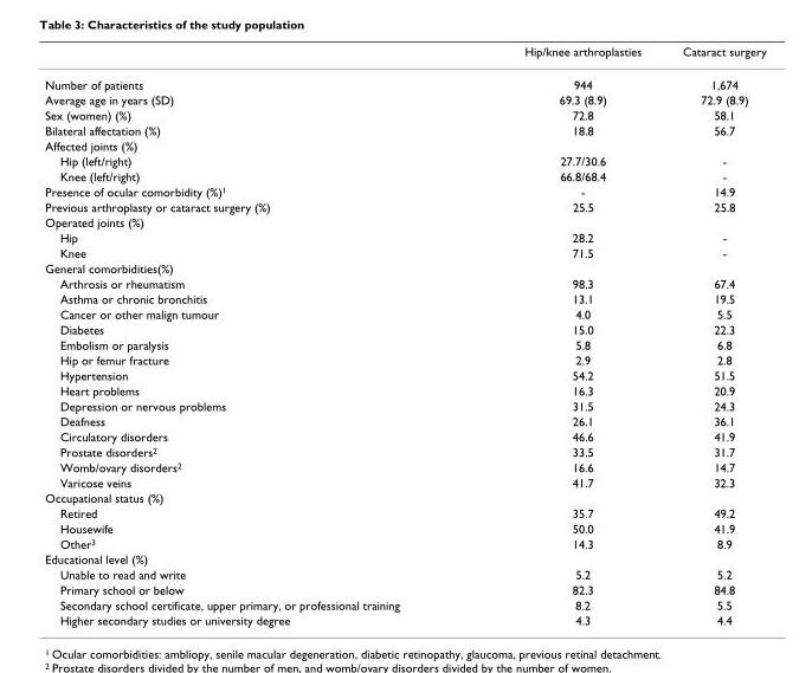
<table><thead><tr><td></td><td>Hip/knee arthroplasties</td><td>Cataract surgery</td></tr></thead><tbody><tr><td>Number of patients</td><td>944</td><td>1,674</td></tr><tr><td>Average age in years (SD)</td><td>69.3 (8.9)</td><td>72.9 (8.9)</td></tr><tr><td>Sex (women) (%)</td><td>72.8</td><td>58.1</td></tr><tr><td>Bilateral affectation (%)</td><td>18.8</td><td>56.7</td></tr><tr><td colspan="3">Affected joints (%)</td></tr><tr><td>Hip (left/right)</td><td>27.7/30.6</td><td>-</td></tr><tr><td>Knee (left/right)</td><td>66.8/68.4</td><td>-</td></tr><tr><td>Presence of ocular comorbidity (%)<sup>1</sup></td><td>-</td><td>14.9</td></tr><tr><td>Previous arthroplasty or cataract surgery (%)</td><td>25.5</td><td>25.8</td></tr><tr><td colspan="3">Operated joints (%)</td></tr><tr><td>Hip</td><td>28.2</td><td>-</td></tr><tr><td>Knee</td><td>71.5</td><td>-</td></tr><tr><td colspan="3">General comorbidities(%)</td></tr><tr><td>Arthrosis or rheumatism</td><td>98.3</td><td>67.4</td></tr><tr><td>Asthma or chronic bronchitis</td><td>13.1</td><td>19.5</td></tr><tr><td>Cancer or other malign tumour</td><td>4.0</td><td>5.5</td></tr><tr><td>Diabetes</td><td>15.0</td><td>22.3</td></tr><tr><td>Embolism or paralysis</td><td>5.8</td><td>6.8</td></tr><tr><td>Hip or femur fracture</td><td>2.9</td><td>2.8</td></tr><tr><td>Hypertension</td><td>54.2</td><td>51.5</td></tr><tr><td>Heart problems</td><td>16.3</td><td>20.9</td></tr><tr><td>Depression or nervous problems</td><td>31.5</td><td>24.3</td></tr><tr><td>Deafness</td><td>26.1</td><td>36.1</td></tr><tr><td>Circulatory disorders</td><td>46.6</td><td>41.9</td></tr><tr><td>Prostate disorders<sup>2</sup></td><td>33.5</td><td>31.7</td></tr><tr><td>Womb/ovary disorders<sup>2</sup></td><td>16.6</td><td>14.7</td></tr><tr><td>Varicose veins</td><td>41.7</td><td>32.3</td></tr><tr><td colspan="3">Occupational status (%)</td></tr><tr><td>Retired</td><td>35.7</td><td>49.2</td></tr><tr><td>Housewife</td><td>50.0</td><td>41.9</td></tr><tr><td>Other<sup>3</sup></td><td>14.3</td><td>8.9</td></tr><tr><td colspan="3">Educational level (%)</td></tr><tr><td>Unable to read and write</td><td>5.2</td><td>5.2</td></tr><tr><td>Primary school or below</td><td>82.3</td><td>84.8</td></tr><tr><td>Secondary school certificate, upper primary, or professional training</td><td>8.2</td><td>5.5</td></tr><tr><td>Higher secondary studies or university degree</td><td>4.3</td><td>4.4</td></tr></tbody></table>